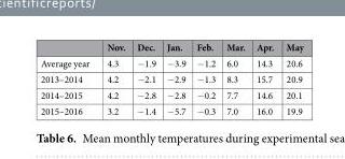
<table><thead><tr><td></td><td>Nov.</td><td>Dec.</td><td>Jan.</td><td>Feb.</td><td>Mar.</td><td>Apr.</td><td>May</td></tr></thead><tbody><tr><td>Average year</td><td>4.3</td><td>−1.9</td><td>−3.9</td><td>−1.2</td><td>6.0</td><td>14.3</td><td>20.6</td></tr><tr><td>2013–2014</td><td>4.2</td><td>−2.1</td><td>−2.9</td><td>−1.3</td><td>8.3</td><td>15.7</td><td>20.9</td></tr><tr><td>2014–2015</td><td>4.2</td><td>−2.8</td><td>−2.8</td><td>−0.2</td><td>7.7</td><td>14.6</td><td>20.1</td></tr><tr><td>2015–2016</td><td>3.2</td><td>−1.4</td><td>−5.7</td><td>−0.3</td><td>7.0</td><td>16.0</td><td>19.9</td></tr></tbody></table>